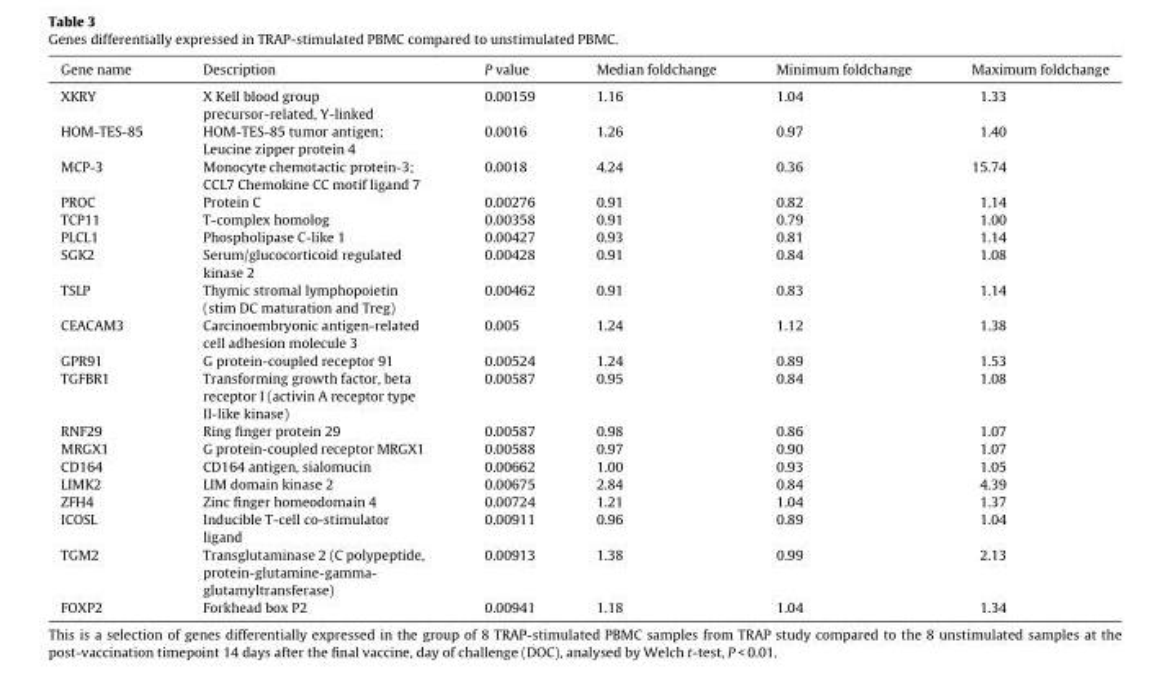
<table><thead><tr><td>Gene name</td><td>Description</td><td>P value</td><td>Median foldchange</td><td>Minimum foldchange</td><td>Maximum foldchange</td></tr></thead><tbody><tr><td>XKRY</td><td>X Kell blood group precursor-related, Y-linked</td><td>0.00159</td><td>1.16</td><td>1.04</td><td>1.33</td></tr><tr><td>HOM-TES-85</td><td>HOM-TES-85 tumor antigen; Leucine zipper protein 4</td><td>0.0016</td><td>1.26</td><td>0.97</td><td>1.40</td></tr><tr><td>MCP-3</td><td>Monocyte chemotactic protein-3; CCL7 Chemokine CC motif ligand 7</td><td>0.0018</td><td>4.24</td><td>0.36</td><td>15.74</td></tr><tr><td>PROC</td><td>Protein C</td><td>0.00276</td><td>0.91</td><td>0.82</td><td>1.14</td></tr><tr><td>TCP11</td><td>T-complex homolog</td><td>0.00358</td><td>0.91</td><td>0.79</td><td>1.00</td></tr><tr><td>PLCL1</td><td>Phospholipase C-like 1</td><td>0.00427</td><td>0.93</td><td>0.81</td><td>1.14</td></tr><tr><td>SGK2</td><td>Serum/glucocorticoid regulated kinase 2</td><td>0.00428</td><td>0.91</td><td>0.84</td><td>1.08</td></tr><tr><td>TSLP</td><td>Thymic stromal lymphopoietin (stim DC maturation and Treg)</td><td>0.00462</td><td>0.91</td><td>0.83</td><td>1.14</td></tr><tr><td>CEACAM3</td><td>Carcinoembryonic antigen-related cell adhesion molecule 3</td><td>0.005</td><td>1.24</td><td>1.12</td><td>1.38</td></tr><tr><td>GPR91</td><td>G protein-coupled receptor 91</td><td>0.00524</td><td>1.24</td><td>0.89</td><td>1.53</td></tr><tr><td>TGFBR1</td><td>Transforming growth factor, beta receptor I (activin A receptor type II-like kinase)</td><td>0.00587</td><td>0.95</td><td>0.84</td><td>1.08</td></tr><tr><td>RNF29</td><td>Ring finger protein 29</td><td>0.00587</td><td>0.98</td><td>0.86</td><td>1.07</td></tr><tr><td>MRGX1</td><td>G protein-coupled receptor MRGX1</td><td>0.00588</td><td>0.97</td><td>0.90</td><td>1.07</td></tr><tr><td>CD164</td><td>CD164 antigen, sialomucin</td><td>0.00662</td><td>1.00</td><td>0.93</td><td>1.05</td></tr><tr><td>LIMK2</td><td>LIM domain kinase 2</td><td>0.00675</td><td>2.84</td><td>0.84</td><td>4.39</td></tr><tr><td>ZFH4</td><td>Zinc finger homeodomain 4</td><td>0.00724</td><td>1.21</td><td>1.04</td><td>1.37</td></tr><tr><td>ICOSL</td><td>Inducible T-cell co-stimulator ligand</td><td>0.00911</td><td>0.96</td><td>0.89</td><td>1.04</td></tr><tr><td>TGM2</td><td>Transglutaminase 2 (C polypeptide, protein-glutamine-gamma- glutamyltransferase)</td><td>0.00913</td><td>1.38</td><td>0.99</td><td>2.13</td></tr><tr><td>FOXP2</td><td>Forkhead box P2</td><td>0.00941</td><td>1.18</td><td>1.04</td><td>1.34</td></tr></tbody></table>